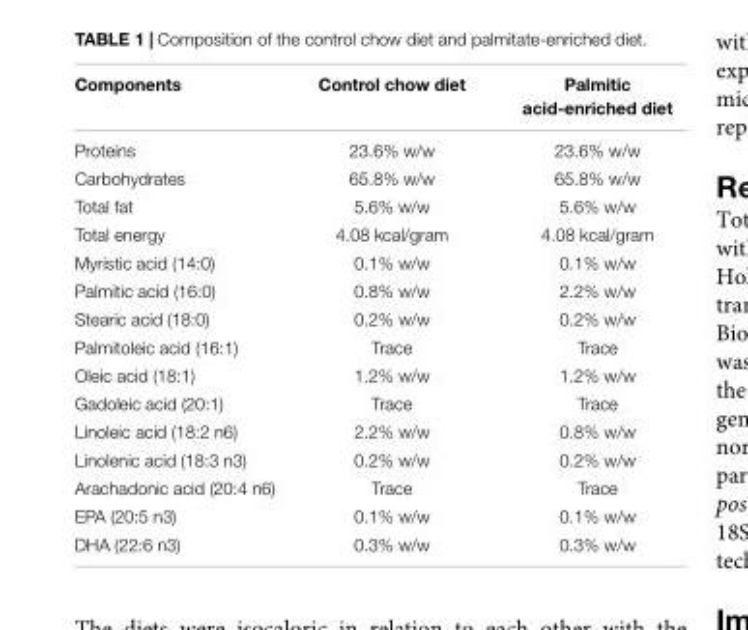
<table><thead><tr><td>Components</td><td>Control chow diet</td><td>Palmitic acid-enriched diet</td></tr></thead><tbody><tr><td>Proteins</td><td>23.6% w/w</td><td>23.6% w/w</td></tr><tr><td>Carbohydrates</td><td>65.8% w/w</td><td>65.8% w/w</td></tr><tr><td>Total fat</td><td>5.6% w/w</td><td>5.6% w/w</td></tr><tr><td>Total energy</td><td>4.08 kcal/gram</td><td>4.08 kcal/gram</td></tr><tr><td>Myristic acid (14:0)</td><td>0.1% w/w</td><td>0.1% w/w</td></tr><tr><td>Palmitic acid (16:0)</td><td>0.8% w/w</td><td>2.2% w/w</td></tr><tr><td>Stearic acid (18:0)</td><td>0.2% w/w</td><td>0.2% w/w</td></tr><tr><td>Palmitoleic acid (16:1)</td><td>Trace</td><td>Trace</td></tr><tr><td>Oleic acid (18:1)</td><td>1.2% w/w</td><td>1.2% w/w</td></tr><tr><td>Gadoleic acid (20:1)</td><td>Trace</td><td>Trace</td></tr><tr><td>Linoleic acid (18:2 n6)</td><td>2.2% w/w</td><td>0.8% w/w</td></tr><tr><td>Linolenic acid (18:3 n3)</td><td>0.2% w/w</td><td>0.2% w/w</td></tr><tr><td>Arachadonic acid (20:4 n6)</td><td>Trace</td><td>Trace</td></tr><tr><td>EPA (20:5 n3)</td><td>0.1% w/w</td><td>0.1% w/w</td></tr><tr><td>DHA (22:6 n3)</td><td>0.3% w/w</td><td>0.3% w/w</td></tr></tbody></table>